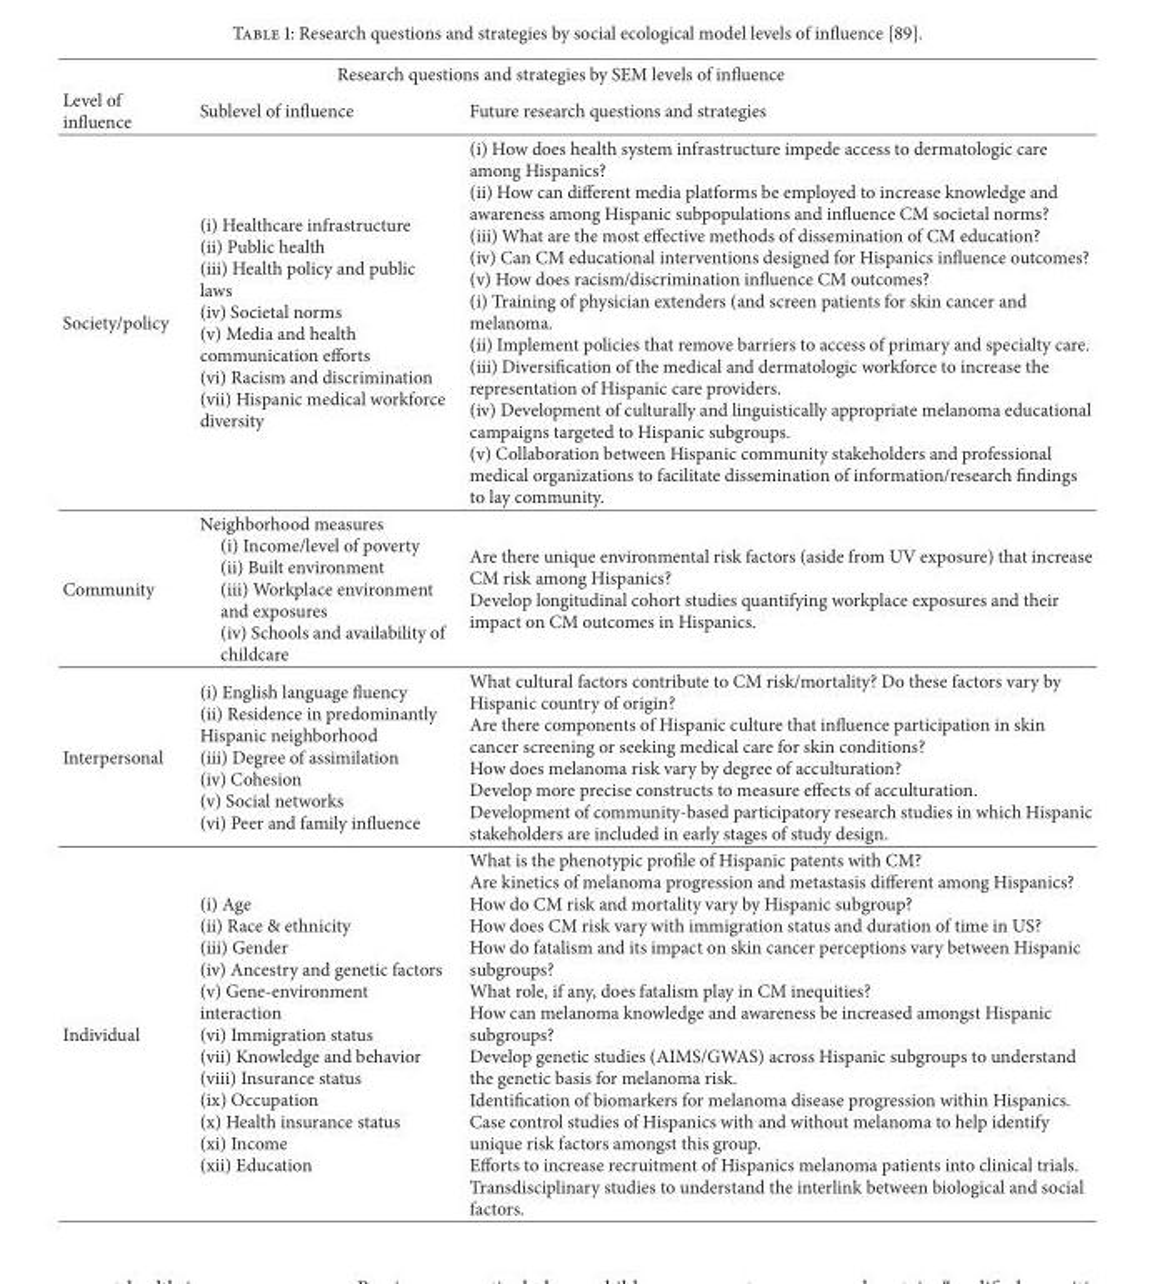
<table><thead><tr><td colspan="3">Research questions and strategies by SEM levels of influence</td></tr><tr><td>Level of influence</td><td>Sublevel of influence</td><td>Future research questions and strategies</td></tr></thead><tbody><tr><td>Society/policy</td><td>(i) Healthcare infrastructure (ii) Public health (iii) Health policy and public laws (iv) Societal norms (v) Media and health communication efforts (vi) Racism and discrimination (vii) Hispanic medical workforce diversity</td><td>(i) How does health system infrastructure impede access to dermatologic care among Hispanics? (ii) How can different media platforms be employed to increase knowledge and awareness among Hispanic subpopulations and influence CM societal norms? (iii) What are the most effective methods of dissemination of CM education? (iv) Can CM educational interventions designed for Hispanics influence outcomes? (v) How does racism/discrimination influence CM outcomes? (i) Training of physician extenders (and screen patients for skin cancer and melanoma. (ii) Implement policies that remove barriers to access of primary and specialty care. (iii) Diversification of the medical and dermatologic workforce to increase the representation of Hispanic care providers. (iv) Development of culturally and linguistically appropriate melanoma educational campaigns targeted to Hispanic subgroups. (v) Collaboration between Hispanic community stakeholders and professional medical organizations to facilitate dissemination of information/research findings to lay community.</td></tr><tr><td>Community</td><td>Neighborhood measures (i) Income/level of poverty (ii) Built environment (iii) Workplace environment and exposures (iv) Schools and availability of childcare</td><td>Are there unique environmental risk factors (aside from UV exposure) that increase CM risk among Hispanics? Develop longitudinal cohort studies quantifying workplace exposures and their impact on CM outcomes in Hispanics.</td></tr><tr><td>Interpersonal</td><td>(i) English language fluency (ii) Residence in predominantly Hispanic neighborhood (iii) Degree of assimilation (iv) Cohesion (v) Social networks (vi) Peer and family influence</td><td>What cultural factors contribute to CM risk/mortality? Do these factors vary by Hispanic country of origin? Are there components of Hispanic culture that influence participation in skin cancer screening or seeking medical care for skin conditions? How does melanoma risk vary by degree of acculturation? Develop more precise constructs to measure effects of acculturation. Development of community-based participatory research studies in which Hispanic stakeholders are included in early stages of study design.</td></tr><tr><td>Individual</td><td>(i) Age (ii) Race &amp; ethnicity (iii) Gender (iv) Ancestry and genetic factors (v) Gene-environment interaction (vi) Immigration status (vii) Knowledge and behavior (viii) Insurance status (ix) Occupation (x) Health insurance status (xi) Income (xii) Education</td><td>What is the phenotypic profile of Hispanic patents with CM? Are kinetics of melanoma progression and metastasis different among Hispanics? How do CM risk and mortality vary by Hispanic subgroup? How does CM risk vary with immigration status and duration of time in US? How do fatalism and its impact on skin cancer perceptions vary between Hispanic subgroups? What role, if any, does fatalism play in CM inequities? How can melanoma knowledge and awareness be increased amongst Hispanic subgroups? Develop genetic studies (AIMS/GWAS) across Hispanic subgroups to understand the genetic basis for melanoma risk. Identification of biomarkers for melanoma disease progression within Hispanics. Case control studies of Hispanics with and without melanoma to help identify unique risk factors amongst this group. Efforts to increase recruitment of Hispanics melanoma patients into clinical trials. Transdisciplinary studies to understand the interlink between biological and social factors.</td></tr></tbody></table>